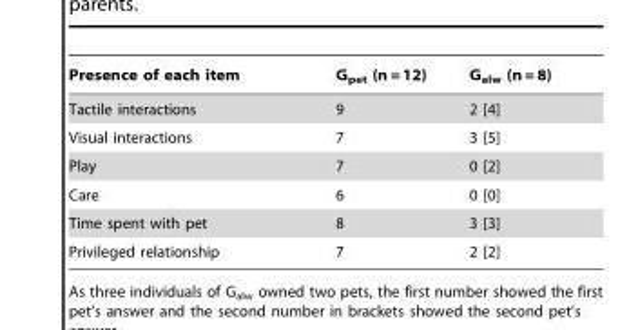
<table><thead><tr><td>Presence of each item</td><td>G<sub>pet</sub> (n = 12)</td><td>G<sub>alw</sub> (n = 8)</td></tr></thead><tbody><tr><td>Tactile interactions</td><td>9</td><td>2 [4]</td></tr><tr><td>Visual interactions</td><td>7</td><td>3 [5]</td></tr><tr><td>Play</td><td>7</td><td>0 [2]</td></tr><tr><td>Care</td><td>6</td><td>0 [0]</td></tr><tr><td>Time spent with pet</td><td>8</td><td>3 [3]</td></tr><tr><td>Privileged relationship</td><td>7</td><td>2 [2]</td></tr></tbody></table>